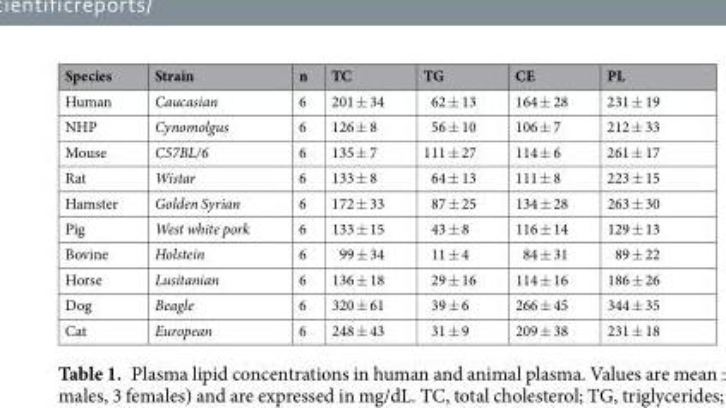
<table><thead><tr><td>Species</td><td>Strain</td><td>n</td><td>TC</td><td>TG</td><td>CE</td><td>PL</td></tr></thead><tbody><tr><td>Human</td><td>Caucasian</td><td>6</td><td>201 ± 34</td><td>62 ± 13</td><td>164 ± 28</td><td>231 ± 19</td></tr><tr><td>NHP</td><td>Cynomolgus</td><td>6</td><td>126 ± 8</td><td>56 ± 10</td><td>106 ± 7</td><td>212 ± 33</td></tr><tr><td>Mouse</td><td>C57BL/6</td><td>6</td><td>135 ± 7</td><td>111 ± 27</td><td>114 ± 6</td><td>261 ± 17</td></tr><tr><td>Rat</td><td>Wistar</td><td>6</td><td>133 ± 8</td><td>64 ± 13</td><td>111 ± 8</td><td>223 ± 15</td></tr><tr><td>Hamster</td><td>Golden Syrian</td><td>6</td><td>172 ± 33</td><td>87 ± 25</td><td>134 ± 28</td><td>263 ± 30</td></tr><tr><td>Pig</td><td>West white pork</td><td>6</td><td>133 ± 15</td><td>43 ± 8</td><td>116 ± 14</td><td>129 ± 13</td></tr><tr><td>Bovine</td><td>Holstein</td><td>6</td><td>99 ± 34</td><td>11 ± 4</td><td>84 ± 31</td><td>89 ± 22</td></tr><tr><td>Horse</td><td>Lusitanian</td><td>6</td><td>136 ± 18</td><td>29 ± 16</td><td>114 ± 16</td><td>186 ± 26</td></tr><tr><td>Dog</td><td>Beagle</td><td>6</td><td>320 ± 61</td><td>39 ± 6</td><td>266 ± 45</td><td>344 ± 35</td></tr><tr><td>Cat</td><td>European</td><td>6</td><td>248 ± 43</td><td>31 ± 9</td><td>209 ± 38</td><td>231 ± 18</td></tr></tbody></table>